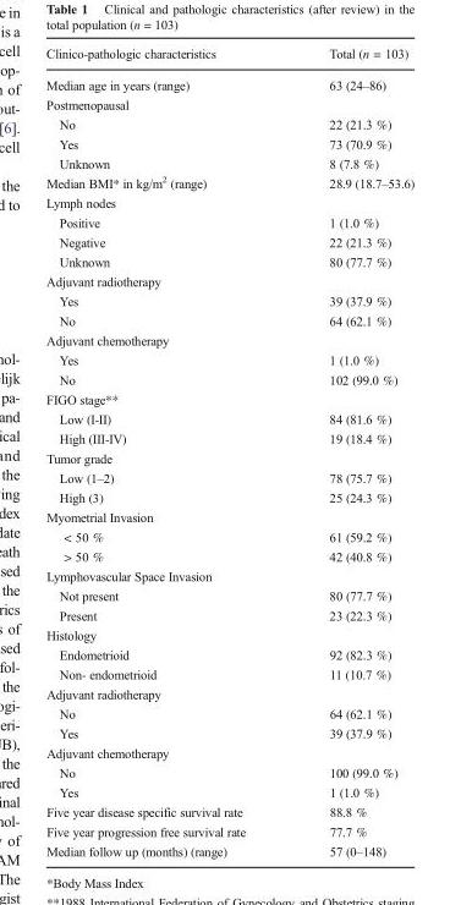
<table><thead><tr><td>Clinico-pathologic characteristics</td><td>Total (n = 103)</td></tr></thead><tbody><tr><td>Median age in years (range)</td><td>63 (24–86)</td></tr><tr><td colspan="2">Postmenopausal</td></tr><tr><td>No</td><td>22 (21.3 %)</td></tr><tr><td>Yes</td><td>73 (70.9 %)</td></tr><tr><td>Unknown</td><td>8 (7.8 %)</td></tr><tr><td>Median BMI* in kg/m<sup>2</sup> (range)</td><td>28.9 (18.7–53.6)</td></tr><tr><td colspan="2">Lymph nodes</td></tr><tr><td>Positive</td><td>1 (1.0 %)</td></tr><tr><td>Negative</td><td>22 (21.3 %)</td></tr><tr><td>Unknown</td><td>80 (77.7 %)</td></tr><tr><td colspan="2">Adjuvant radiotherapy</td></tr><tr><td>Yes</td><td>39 (37.9 %)</td></tr><tr><td>No</td><td>64 (62.1 %)</td></tr><tr><td colspan="2">Adjuvant chemotherapy</td></tr><tr><td>Yes</td><td>1 (1.0 %)</td></tr><tr><td>No</td><td>102 (99.0 %)</td></tr><tr><td colspan="2">FIGO stage**</td></tr><tr><td>Low (I-II)</td><td>84 (81.6 %)</td></tr><tr><td>High (III-IV)</td><td>19 (18.4 %)</td></tr><tr><td colspan="2">Tumor grade</td></tr><tr><td>Low (1–2)</td><td>78 (75.7 %)</td></tr><tr><td>High (3)</td><td>25 (24.3 %)</td></tr><tr><td colspan="2">Myometrial Invasion</td></tr><tr><td>&lt; 50 %</td><td>61 (59.2 %)</td></tr><tr><td>&gt; 50 %</td><td>42 (40.8 %)</td></tr><tr><td colspan="2">Lymphovascular Space Invasion</td></tr><tr><td>Not present</td><td>80 (77.7 %)</td></tr><tr><td>Present</td><td>23 (22.3 %)</td></tr><tr><td colspan="2">Histology</td></tr><tr><td>Endometrioid</td><td>92 (82.3 %)</td></tr><tr><td>Non- endometrioid</td><td>11 (10.7 %)</td></tr><tr><td colspan="2">Adjuvant radiotherapy</td></tr><tr><td>No</td><td>64 (62.1 %)</td></tr><tr><td>Yes</td><td>39 (37.9 %)</td></tr><tr><td colspan="2">Adjuvant chemotherapy</td></tr><tr><td>No</td><td>100 (99.0 %)</td></tr><tr><td>Yes</td><td>1 (1.0 %)</td></tr><tr><td>Five year disease specific survival rate</td><td>88.8 %</td></tr><tr><td>Five year progression free survival rate</td><td>77.7 %</td></tr><tr><td>Median follow up (months) (range)</td><td>57 (0–148)</td></tr></tbody></table>